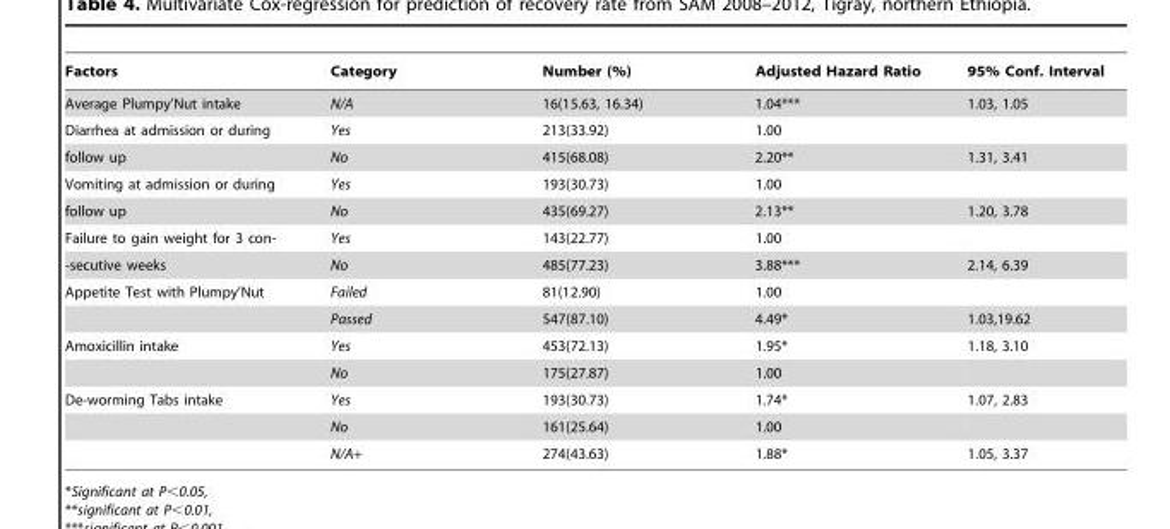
<table><thead><tr><td>Factors</td><td>Category</td><td>Number (%)</td><td>Adjusted Hazard Ratio</td><td>95% Conf. Interval</td></tr></thead><tbody><tr><td>Average Plumpy’Nut intake</td><td>N/A</td><td>16(15.63, 16.34)</td><td>1.04***</td><td>1.03, 1.05</td></tr><tr><td>Diarrhea at admission or during</td><td>Yes</td><td>213(33.92)</td><td>1.00</td><td></td></tr><tr><td>follow up</td><td>No</td><td>415(68.08)</td><td>2.20**</td><td>1.31, 3.41</td></tr><tr><td>Vomiting at admission or during</td><td>Yes</td><td>193(30.73)</td><td>1.00</td><td></td></tr><tr><td>follow up</td><td>No</td><td>435(69.27)</td><td>2.13**</td><td>1.20, 3.78</td></tr><tr><td>Failure to gain weight for 3 con-</td><td>Yes</td><td>143(22.77)</td><td>1.00</td><td></td></tr><tr><td>-secutive weeks</td><td>No</td><td>485(77.23)</td><td>3.88***</td><td>2.14, 6.39</td></tr><tr><td rowspan="2">Appetite Test with Plumpy’Nut</td><td>Failed</td><td>81(12.90)</td><td>1.00</td><td></td></tr><tr><td>Passed</td><td>547(87.10)</td><td>4.49*</td><td>1.03,19.62</td></tr><tr><td rowspan="2">Amoxicillin intake</td><td>Yes</td><td>453(72.13)</td><td>1.95*</td><td>1.18, 3.10</td></tr><tr><td>No</td><td>175(27.87)</td><td>1.00</td><td></td></tr><tr><td rowspan="3">De-worming Tabs intake</td><td>Yes</td><td>193(30.73)</td><td>1.74*</td><td>1.07, 2.83</td></tr><tr><td>No</td><td>161(25.64)</td><td>1.00</td><td></td></tr><tr><td>N/A+</td><td>274(43.63)</td><td>1.88*</td><td>1.05, 3.37</td></tr></tbody></table>